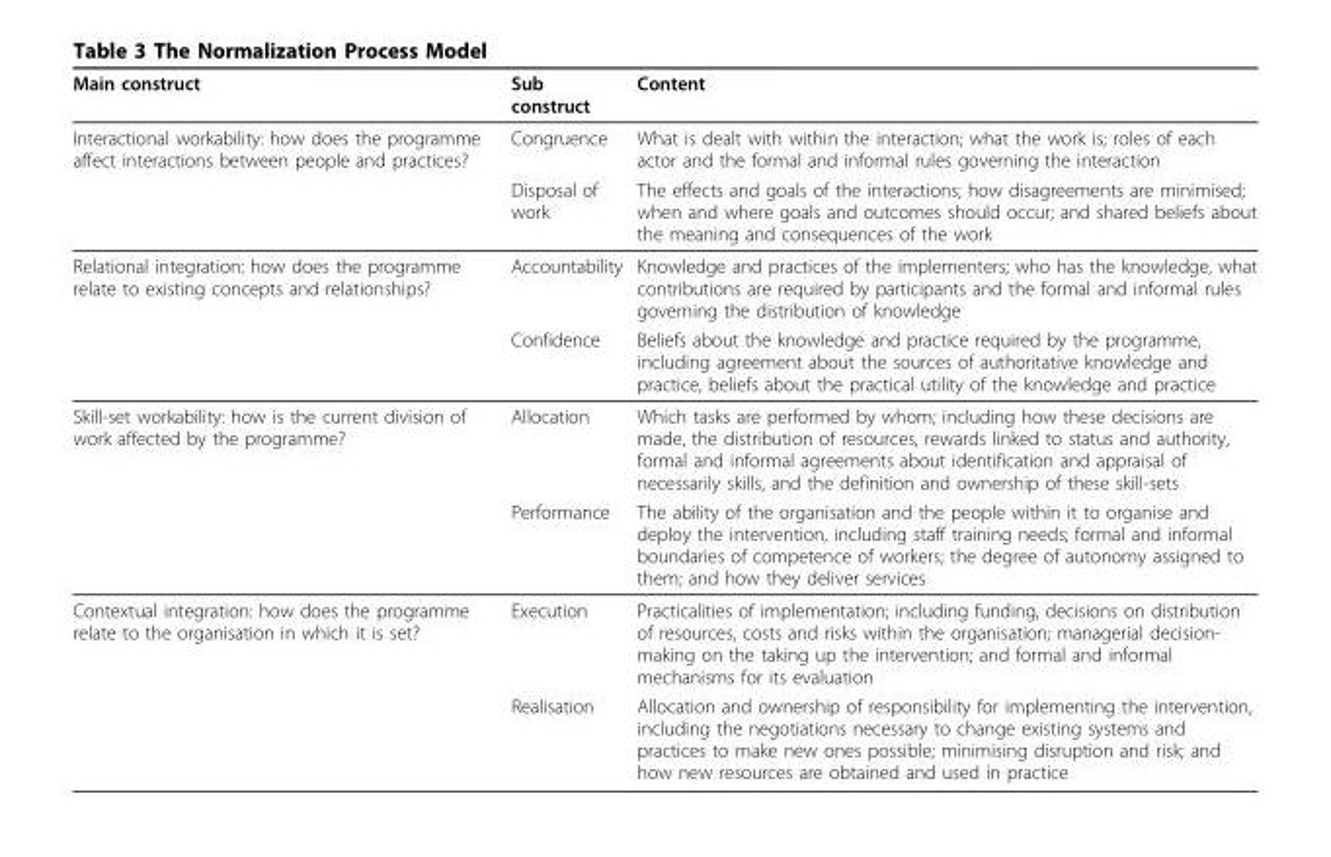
<table><thead><tr><td>Main construct</td><td>Sub construct</td><td>Content</td></tr></thead><tbody><tr><td rowspan="2">Interactional workability: how does the programme affect interactions between people and practices?</td><td>Congruence</td><td>What is dealt with within the interaction; what the work is; roles of each actor and the formal and informal rules governing the interaction</td></tr><tr><td>Disposal of work</td><td>The effects and goals of the interactions; how disagreements are minimised; when and where goals and outcomes should occur; and shared beliefs about the meaning and consequences of the work</td></tr><tr><td rowspan="2">Relational integration: how does the programme relate to existing concepts and relationships?</td><td>Accountability</td><td>Knowledge and practices of the implementers; who has the knowledge, what contributions are required by participants and the formal and informal rules governing the distribution of knowledge</td></tr><tr><td>Confidence</td><td>Beliefs about the knowledge and practice required by the programme, including agreement about the sources of authoritative knowledge and practice, beliefs about the practical utility of the knowledge and practice</td></tr><tr><td rowspan="2">Skill-set workability: how is the current division of work affected by the programme?</td><td>Allocation</td><td>Which tasks are performed by whom; including how these decisions are made, the distribution of resources, rewards linked to status and authority, formal and informal agreements about identification and appraisal of necessarily skills, and the definition and ownership of these skill-sets</td></tr><tr><td>Performance</td><td>The ability of the organisation and the people within it to organise and deploy the intervention, including staff training needs; formal and informal boundaries of competence of workers; the degree of autonomy assigned to them; and how they deliver services</td></tr><tr><td rowspan="2">Contextual integration: how does the programme relate to the organisation in which it is set?</td><td>Execution</td><td>Practicalities of implementation; including funding, decisions on distribution of resources, costs and risks within the organisation; managerial decision- making on the taking up the intervention; and formal and informal mechanisms for its evaluation</td></tr><tr><td>Realisation</td><td>Allocation and ownership of responsibility for implementing the intervention, including the negotiations necessary to change existing systems and practices to make new ones possible; minimising disruption and risk; and how new resources are obtained and used in practice</td></tr></tbody></table>